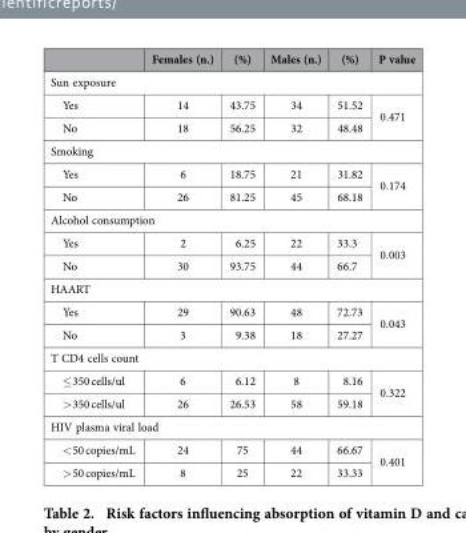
<table><thead><tr><td></td><td>Females (n.)</td><td>(%)</td><td>Males (n.)</td><td>(%)</td><td>P value</td></tr></thead><tbody><tr><td colspan="6">Sun exposure</td></tr><tr><td>Yes</td><td>14</td><td>43.75</td><td>34</td><td>51.52</td><td rowspan="2">0.471</td></tr><tr><td>No</td><td>18</td><td>56.25</td><td>32</td><td>48.48</td></tr><tr><td colspan="6">Smoking</td></tr><tr><td>Yes</td><td>6</td><td>18.75</td><td>21</td><td>31.82</td><td rowspan="2">0.174</td></tr><tr><td>No</td><td>26</td><td>81.25</td><td>45</td><td>68.18</td></tr><tr><td colspan="6">Alcohol consumption</td></tr><tr><td>Yes</td><td>2</td><td>6.25</td><td>22</td><td>33.3</td><td rowspan="2">0.003</td></tr><tr><td>No</td><td>30</td><td>93.75</td><td>44</td><td>66.7</td></tr><tr><td colspan="6">HAART</td></tr><tr><td>Yes</td><td>29</td><td>90.63</td><td>48</td><td>72.73</td><td rowspan="2">0.043</td></tr><tr><td>No</td><td>3</td><td>9.38</td><td>18</td><td>27.27</td></tr><tr><td colspan="6">T CD4 cells count</td></tr><tr><td>≤ 350 cells/ul</td><td>6</td><td>6.12</td><td>8</td><td>8.16</td><td rowspan="2">0.322</td></tr><tr><td>&gt; 350 cells/ul</td><td>26</td><td>26.53</td><td>58</td><td>59.18</td></tr><tr><td colspan="6">HIV plasma viral load</td></tr><tr><td>&lt; 50 copies/mL</td><td>24</td><td>75</td><td>44</td><td>66.67</td><td rowspan="2">0.401</td></tr><tr><td>&gt; 50 copies/mL</td><td>8</td><td>25</td><td>22</td><td>33.33</td></tr></tbody></table>